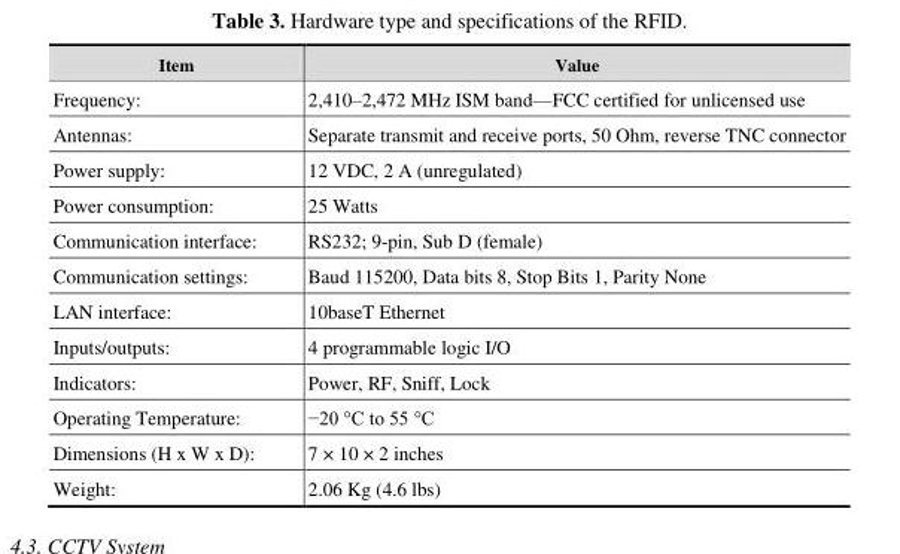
<table><thead><tr><td>Item</td><td>Value</td></tr></thead><tbody><tr><td>Frequency:</td><td>2,410–2,472 MHz ISM band—FCC certified for unlicensed use</td></tr><tr><td>Antennas:</td><td>Separate transmit and receive ports, 50 Ohm, reverse TNC connector</td></tr><tr><td>Power supply:</td><td>12 VDC, 2 A (unregulated)</td></tr><tr><td>Power consumption:</td><td>25 Watts</td></tr><tr><td>Communication interface:</td><td>RS232; 9-pin, Sub D (female)</td></tr><tr><td>Communication settings:</td><td>Baud 115200, Data bits 8, Stop Bits 1, Parity None</td></tr><tr><td>LAN interface:</td><td>10baseT Ethernet</td></tr><tr><td>Inputs/outputs:</td><td>4 programmable logic I/O</td></tr><tr><td>Indicators:</td><td>Power, RF, Sniff, Lock</td></tr><tr><td>Operating Temperature:</td><td>−20 °C to 55 °C</td></tr><tr><td>Dimensions (H x W x D):</td><td>7 × 10 × 2 inches</td></tr><tr><td>Weight:</td><td>2.06 Kg (4.6 lbs)</td></tr></tbody></table>